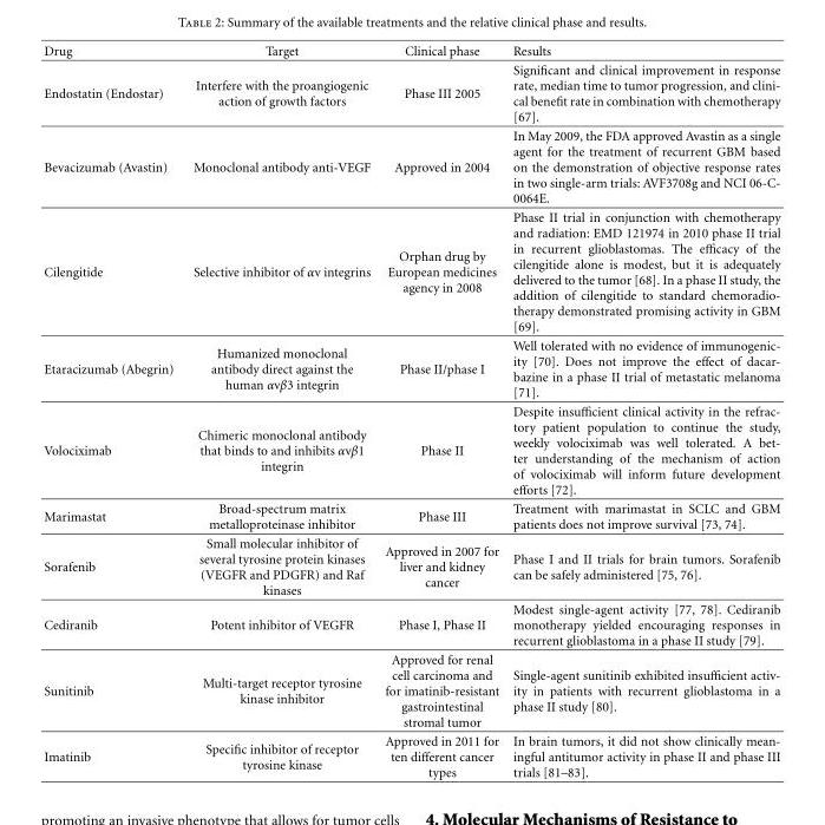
<table><thead><tr><td>Drug</td><td>Target</td><td>Clinical phase</td><td>Results</td></tr></thead><tbody><tr><td>Endostatin (Endostar)</td><td>Interfere with the proangiogenic action of growth factors</td><td>Phase III 2005</td><td>Significant and clinical improvement in response rate, median time to tumor progression, and clini- cal benefit rate in combination with chemotherapy [67].</td></tr><tr><td>Bevacizumab (Avastin)</td><td>Monoclonal antibody anti-VEGF</td><td>Approved in 2004</td><td>In May 2009, the FDA approved Avastin as a single agent for the treatment of recurrent GBM based on the demonstration of objective response rates in two single-arm trials: AVF3708g and NCI 06-C- 0064E.</td></tr><tr><td>Cilengitide</td><td>Selective inhibitor of αv integrins</td><td>Orphan drug by European medicines agency in 2008</td><td>Phase II trial in conjunction with chemotherapy and radiation: EMD 121974 in 2010 phase II trial in recurrent glioblastomas. The efficacy of the cilengitide alone is modest, but it is adequately delivered to the tumor [68]. In a phase II study, the addition of cilengitide to standard chemoradio- therapy demonstrated promising activity in GBM [69].</td></tr><tr><td>Etaracizumab (Abegrin)</td><td>Humanized monoclonal antibody direct against the human αvβ3 integrin</td><td>Phase II/phase I</td><td>Well tolerated with no evidence of immunogenic- ity [70]. Does not improve the effect of dacar- bazine in a phase II trial of metastatic melanoma [71].</td></tr><tr><td>Volociximab</td><td>Chimeric monoclonal antibody that binds to and inhibits αvβ1 integrin</td><td>Phase II</td><td>Despite insufficient clinical activity in the refrac- tory patient population to continue the study, weekly volociximab was well tolerated. A bet- ter understanding of the mechanism of action of volociximab will inform future development efforts [72].</td></tr><tr><td>Marimastat</td><td>Broad-spectrum matrix metalloproteinase inhibitor</td><td>Phase III</td><td>Treatment with marimastat in SCLC and GBM patients does not improve survival [73, 74].</td></tr><tr><td>Sorafenib</td><td>Small molecular inhibitor of several tyrosine protein kinases (VEGFR and PDGFR) and Raf kinases</td><td>Approved in 2007 for liver and kidney cancer</td><td>Phase I and II trials for brain tumors. Sorafenib can be safely administered [75, 76].</td></tr><tr><td>Cediranib</td><td>Potent inhibitor of VEGFR</td><td>Phase I, Phase II</td><td>Modest single-agent activity [77, 78]. Cediranib monotherapy yielded encouraging responses in recurrent glioblastoma in a phase II study [79].</td></tr><tr><td>Sunitinib</td><td>Multi-target receptor tyrosine kinase inhibitor</td><td>Approved for renal cell carcinoma and for imatinib-resistant gastrointestinal stromal tumor</td><td>Single-agent sunitinib exhibited insufficient activ- ity in patients with recurrent glioblastoma in a phase II study [80].</td></tr><tr><td>Imatinib</td><td>Specific inhibitor of receptor tyrosine kinase</td><td>Approved in 2011 for ten different cancer types</td><td>In brain tumors, it did not show clinically mean- ingful antitumor activity in phase II and phase III trials [81–83].</td></tr></tbody></table>